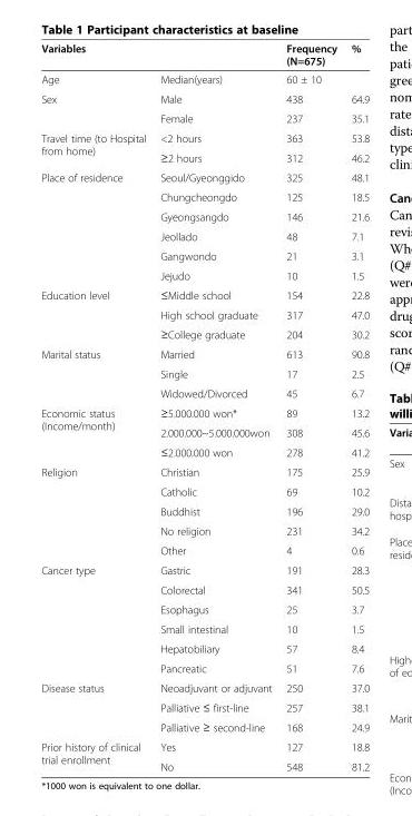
<table><thead><tr><td>Variables</td><td></td><td>Frequency (N=675)</td><td>%</td></tr></thead><tbody><tr><td>Age</td><td>Median(years)</td><td colspan="2">60 ± 10</td></tr><tr><td rowspan="2">Sex</td><td>Male</td><td>438</td><td>64.9</td></tr><tr><td>Female</td><td>237</td><td>35.1</td></tr><tr><td rowspan="2">Travel time (to Hospital from home)</td><td>&lt;2 hours</td><td>363</td><td>53.8</td></tr><tr><td>≥2 hours</td><td>312</td><td>46.2</td></tr><tr><td rowspan="6">Place of residence</td><td>Seoul/Gyeonggido</td><td>325</td><td>48.1</td></tr><tr><td>Chungcheongdo</td><td>125</td><td>18.5</td></tr><tr><td>Gyeongsangdo</td><td>146</td><td>21.6</td></tr><tr><td>Jeollado</td><td>48</td><td>7.1</td></tr><tr><td>Gangwondo</td><td>21</td><td>3.1</td></tr><tr><td>Jejudo</td><td>10</td><td>1.5</td></tr><tr><td rowspan="3">Education level</td><td>≤Middle school</td><td>154</td><td>22.8</td></tr><tr><td>High school graduate</td><td>317</td><td>47.0</td></tr><tr><td>≥College graduate</td><td>204</td><td>30.2</td></tr><tr><td rowspan="3">Marital status</td><td>Married</td><td>613</td><td>90.8</td></tr><tr><td>Single</td><td>17</td><td>2.5</td></tr><tr><td>Widowed/Divorced</td><td>45</td><td>6.7</td></tr><tr><td rowspan="3">Economic status (Income/month)</td><td>≥5.000.000 won*</td><td>89</td><td>13.2</td></tr><tr><td>2.000.000~5.000.000won</td><td>308</td><td>45.6</td></tr><tr><td>≤2.000.000 won</td><td>278</td><td>41.2</td></tr><tr><td rowspan="5">Religion</td><td>Christian</td><td>175</td><td>25.9</td></tr><tr><td>Catholic</td><td>69</td><td>10.2</td></tr><tr><td>Buddhist</td><td>196</td><td>29.0</td></tr><tr><td>No religion</td><td>231</td><td>34.2</td></tr><tr><td>Other</td><td>4</td><td>0.6</td></tr><tr><td rowspan="6">Cancer type</td><td>Gastric</td><td>191</td><td>28.3</td></tr><tr><td>Colorectal</td><td>341</td><td>50.5</td></tr><tr><td>Esophagus</td><td>25</td><td>3.7</td></tr><tr><td>Small intestinal</td><td>10</td><td>1.5</td></tr><tr><td>Hepatobiliary</td><td>57</td><td>8.4</td></tr><tr><td>Pancreatic</td><td>51</td><td>7.6</td></tr><tr><td rowspan="3">Disease status</td><td>Neoadjuvant or adjuvant</td><td>250</td><td>37.0</td></tr><tr><td>Palliative ≤ first-line</td><td>257</td><td>38.1</td></tr><tr><td>Palliative ≥ second-line</td><td>168</td><td>24.9</td></tr><tr><td rowspan="2">Prior history of clinical trial enrollment</td><td>Yes</td><td>127</td><td>18.8</td></tr><tr><td>No</td><td>548</td><td>81.2</td></tr></tbody></table>